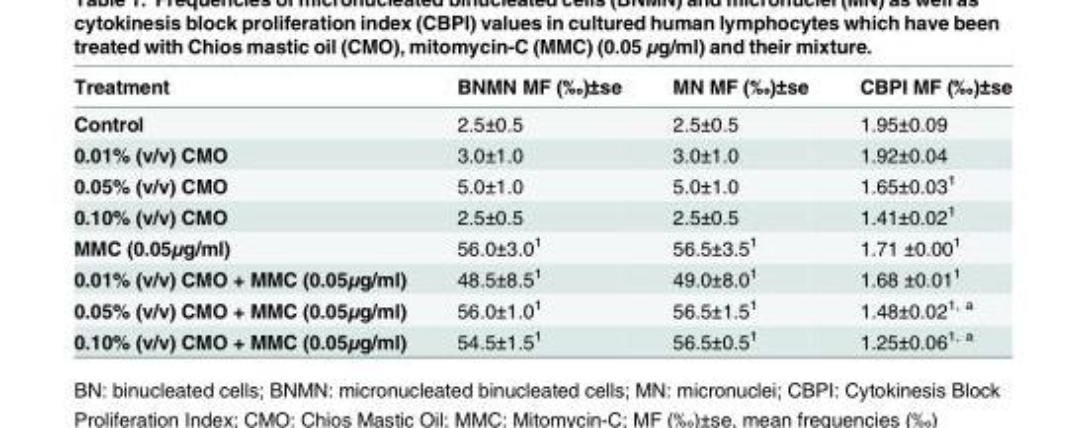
<table><thead><tr><td>Treatment</td><td>BNMN MF (‰)±se</td><td>MN MF (‰)±se</td><td>CBPI MF (‰)±se</td></tr></thead><tbody><tr><td>Control</td><td>2.5±0.5</td><td>2.5±0.5</td><td>1.95±0.09</td></tr><tr><td>0.01% (v/v) CMO</td><td>3.0±1.0</td><td>3.0±1.0</td><td>1.92±0.04</td></tr><tr><td>0.05% (v/v) CMO</td><td>5.0±1.0</td><td>5.0±1.0</td><td>1.65±0.03<sup>1</sup></td></tr><tr><td>0.10% (v/v) CMO</td><td>2.5±0.5</td><td>2.5±0.5</td><td>1.41±0.02<sup>1</sup></td></tr><tr><td>MMC (0.05μg/ml)</td><td>56.0±3.0<sup>1</sup></td><td>56.5±3.5<sup>1</sup></td><td>1.71 ±0.00<sup>1</sup></td></tr><tr><td>0.01% (v/v) CMO + MMC (0.05μg/ml)</td><td>48.5±8.5<sup>1</sup></td><td>49.0±8.0<sup>1</sup></td><td>1.68 ±0.01<sup>1</sup></td></tr><tr><td>0.05% (v/v) CMO + MMC (0.05μg/ml)</td><td>56.0±1.0<sup>1</sup></td><td>56.5±1.5<sup>1</sup></td><td>1.48±0.02<sup>1, a</sup></td></tr><tr><td>0.10% (v/v) CMO + MMC (0.05μg/ml)</td><td>54.5±1.5<sup>1</sup></td><td>56.5±0.5<sup>1</sup></td><td>1.25±0.06<sup>1, a</sup></td></tr></tbody></table>